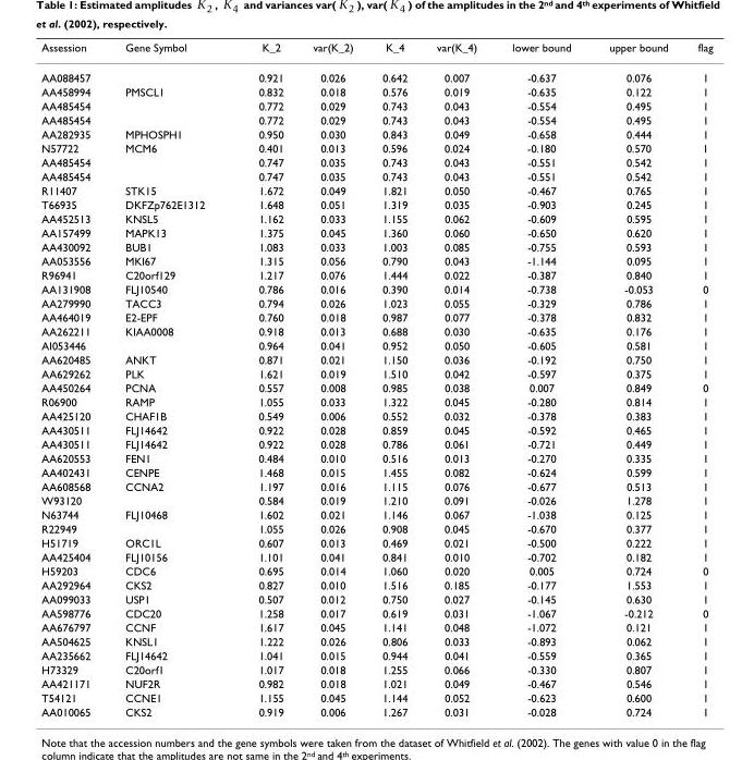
<table><thead><tr><td>Assession</td><td>Gene Symbol</td><td>K_2</td><td>var(K_2)</td><td>K_4</td><td>var(K_4)</td><td>lower bound</td><td>upper bound</td><td>flag</td></tr></thead><tbody><tr><td>AA088457</td><td></td><td>0.921</td><td>0.026</td><td>0.642</td><td>0.007</td><td>-0.637</td><td>0.076</td><td>1</td></tr><tr><td>AA458994</td><td>PMSCL1</td><td>0.832</td><td>0.018</td><td>0.576</td><td>0.019</td><td>-0.635</td><td>0.122</td><td>1</td></tr><tr><td>AA485454</td><td></td><td>0.772</td><td>0.029</td><td>0.743</td><td>0.043</td><td>-0.554</td><td>0.495</td><td>1</td></tr><tr><td>AA485454</td><td></td><td>0.772</td><td>0.029</td><td>0.743</td><td>0.043</td><td>-0.554</td><td>0.495</td><td>1</td></tr><tr><td>AA282935</td><td>MPHOSPH1</td><td>0.950</td><td>0.030</td><td>0.843</td><td>0.049</td><td>-0.658</td><td>0.444</td><td>1</td></tr><tr><td>N57722</td><td>MCM6</td><td>0.401</td><td>0.013</td><td>0.596</td><td>0.024</td><td>-0.180</td><td>0.570</td><td>1</td></tr><tr><td>AA485454</td><td></td><td>0.747</td><td>0.035</td><td>0.743</td><td>0.043</td><td>-0.551</td><td>0.542</td><td>1</td></tr><tr><td>AA485454</td><td></td><td>0.747</td><td>0.035</td><td>0.743</td><td>0.043</td><td>-0.551</td><td>0.542</td><td>1</td></tr><tr><td>R11407</td><td>STK15</td><td>1.672</td><td>0.049</td><td>1.821</td><td>0.050</td><td>-0.467</td><td>0.765</td><td>1</td></tr><tr><td>T66935</td><td>DKFZp762E1312</td><td>1.648</td><td>0.051</td><td>1.319</td><td>0.035</td><td>-0.903</td><td>0.245</td><td>1</td></tr><tr><td>AA452513</td><td>KNSL5</td><td>1.162</td><td>0.033</td><td>1.155</td><td>0.062</td><td>-0.609</td><td>0.595</td><td>1</td></tr><tr><td>AA157499</td><td>MAPK13</td><td>1.375</td><td>0.045</td><td>1.360</td><td>0.060</td><td>-0.650</td><td>0.620</td><td>1</td></tr><tr><td>AA430092</td><td>BUB1</td><td>1.083</td><td>0.033</td><td>1.003</td><td>0.085</td><td>-0.755</td><td>0.593</td><td>1</td></tr><tr><td>AA053556</td><td>MKI67</td><td>1.315</td><td>0.056</td><td>0.790</td><td>0.043</td><td>-1.144</td><td>0.095</td><td>1</td></tr><tr><td>R96941</td><td>C20orf129</td><td>1.217</td><td>0.076</td><td>1.444</td><td>0.022</td><td>-0.387</td><td>0.840</td><td>1</td></tr><tr><td>AA131908</td><td>FLJ10540</td><td>0.786</td><td>0.016</td><td>0.390</td><td>0.014</td><td>-0.738</td><td>-0.053</td><td>0</td></tr><tr><td>AA279990</td><td>TACC3</td><td>0.794</td><td>0.026</td><td>1.023</td><td>0.055</td><td>-0.329</td><td>0.786</td><td>1</td></tr><tr><td>AA464019</td><td>E2-EPF</td><td>0.760</td><td>0.018</td><td>0.987</td><td>0.077</td><td>-0.378</td><td>0.832</td><td>1</td></tr><tr><td>AA262211</td><td>KIAA0008</td><td>0.918</td><td>0.013</td><td>0.688</td><td>0.030</td><td>-0.635</td><td>0.176</td><td>1</td></tr><tr><td>AI053446</td><td></td><td>0.964</td><td>0.041</td><td>0.952</td><td>0.050</td><td>-0.605</td><td>0.581</td><td>1</td></tr><tr><td>AA620485</td><td>ANKT</td><td>0.871</td><td>0.021</td><td>1.150</td><td>0.036</td><td>-0.192</td><td>0.750</td><td>1</td></tr><tr><td>AA629262</td><td>PLK</td><td>1.621</td><td>0.019</td><td>1.510</td><td>0.042</td><td>-0.597</td><td>0.375</td><td>1</td></tr><tr><td>AA450264</td><td>PCNA</td><td>0.557</td><td>0.008</td><td>0.985</td><td>0.038</td><td>0.007</td><td>0.849</td><td>0</td></tr><tr><td>R06900</td><td>RAMP</td><td>1.055</td><td>0.033</td><td>1.322</td><td>0.045</td><td>-0.280</td><td>0.814</td><td>1</td></tr><tr><td>AA425120</td><td>CHAF1B</td><td>0.549</td><td>0.006</td><td>0.552</td><td>0.032</td><td>-0.378</td><td>0.383</td><td>1</td></tr><tr><td>AA430511</td><td>FLJ14642</td><td>0.922</td><td>0.028</td><td>0.859</td><td>0.045</td><td>-0.592</td><td>0.465</td><td>1</td></tr><tr><td>AA430511</td><td>FLJ14642</td><td>0.922</td><td>0.028</td><td>0.786</td><td>0.061</td><td>-0.721</td><td>0.449</td><td>1</td></tr><tr><td>AA620553</td><td>FEN1</td><td>0.484</td><td>0.010</td><td>0.516</td><td>0.013</td><td>-0.270</td><td>0.335</td><td>1</td></tr><tr><td>AA402431</td><td>CENPE</td><td>1.468</td><td>0.015</td><td>1.455</td><td>0.082</td><td>-0.624</td><td>0.599</td><td>1</td></tr><tr><td>AA608568</td><td>CCNA2</td><td>1.197</td><td>0.016</td><td>1.115</td><td>0.076</td><td>-0.677</td><td>0.513</td><td>1</td></tr><tr><td>W93120</td><td></td><td>0.584</td><td>0.019</td><td>1.210</td><td>0.091</td><td>-0.026</td><td>1.278</td><td>1</td></tr><tr><td>N63744</td><td>FLJ10468</td><td>1.602</td><td>0.021</td><td>1.146</td><td>0.067</td><td>-1.038</td><td>0.125</td><td>1</td></tr><tr><td>R22949</td><td></td><td>1.055</td><td>0.026</td><td>0.908</td><td>0.045</td><td>-0.670</td><td>0.377</td><td>1</td></tr><tr><td>H51719</td><td>ORC1L</td><td>0.607</td><td>0.013</td><td>0.469</td><td>0.021</td><td>-0.500</td><td>0.222</td><td>1</td></tr><tr><td>AA425404</td><td>FLJ10156</td><td>1.101</td><td>0.041</td><td>0.841</td><td>0.010</td><td>-0.702</td><td>0.182</td><td>1</td></tr><tr><td>H59203</td><td>CDC6</td><td>0.695</td><td>0.014</td><td>1.060</td><td>0.020</td><td>0.005</td><td>0.724</td><td>0</td></tr><tr><td>AA292964</td><td>CKS2</td><td>0.827</td><td>0.010</td><td>1.516</td><td>0.185</td><td>-0.177</td><td>1.553</td><td>1</td></tr><tr><td>AA099033</td><td>USP1</td><td>0.507</td><td>0.012</td><td>0.750</td><td>0.027</td><td>-0.145</td><td>0.630</td><td>1</td></tr><tr><td>AA598776</td><td>CDC20</td><td>1.258</td><td>0.017</td><td>0.619</td><td>0.031</td><td>-1.067</td><td>-0.212</td><td>0</td></tr><tr><td>AA676797</td><td>CCNF</td><td>1.617</td><td>0.045</td><td>1.141</td><td>0.048</td><td>-1.072</td><td>0.121</td><td>1</td></tr><tr><td>AA504625</td><td>KNSL1</td><td>1.222</td><td>0.026</td><td>0.806</td><td>0.033</td><td>-0.893</td><td>0.062</td><td>1</td></tr><tr><td>AA235662</td><td>FLJ14642</td><td>1.041</td><td>0.015</td><td>0.944</td><td>0.041</td><td>-0.559</td><td>0.365</td><td>1</td></tr><tr><td>H73329</td><td>C20orf1</td><td>1.017</td><td>0.018</td><td>1.255</td><td>0.066</td><td>-0.330</td><td>0.807</td><td>1</td></tr><tr><td>AA421171</td><td>NUF2R</td><td>0.982</td><td>0.018</td><td>1.021</td><td>0.049</td><td>-0.467</td><td>0.546</td><td>1</td></tr><tr><td>T54121</td><td>CCNE1</td><td>1.155</td><td>0.045</td><td>1.144</td><td>0.052</td><td>-0.623</td><td>0.600</td><td>1</td></tr><tr><td>AA010065</td><td>CKS2</td><td>0.919</td><td>0.006</td><td>1.267</td><td>0.031</td><td>-0.028</td><td>0.724</td><td>1</td></tr></tbody></table>